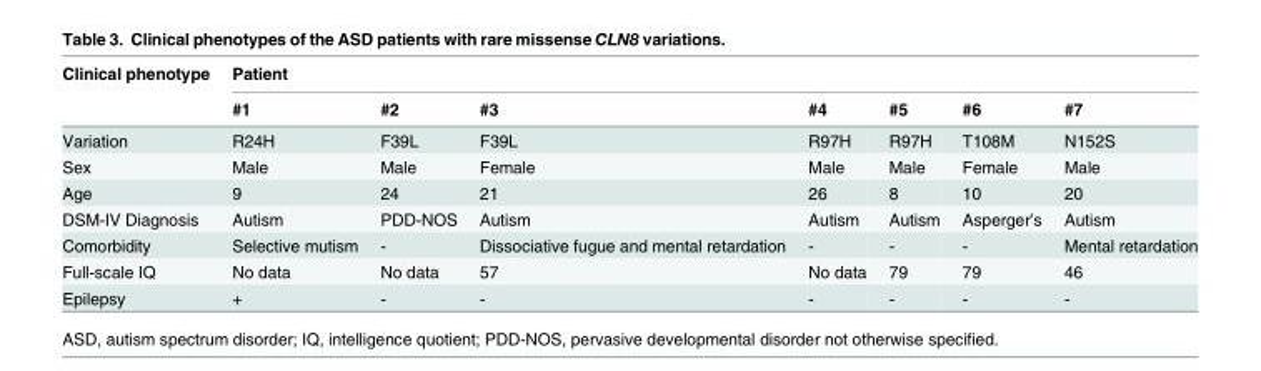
<table><thead><tr><td rowspan="2">Clinical phenotype</td><td colspan="7">Patient</td></tr><tr><td>#1</td><td>#2</td><td>#3</td><td>#4</td><td>#5</td><td>#6</td><td>#7</td></tr></thead><tbody><tr><td>Variation</td><td>R24H</td><td>F39L</td><td>F39L</td><td>R97H</td><td>R97H</td><td>T108M</td><td>N152S</td></tr><tr><td>Sex</td><td>Male</td><td>Male</td><td>Female</td><td>Male</td><td>Male</td><td>Female</td><td>Male</td></tr><tr><td>Age</td><td>9</td><td>24</td><td>21</td><td>26</td><td>8</td><td>10</td><td>20</td></tr><tr><td>DSM-IV Diagnosis</td><td>Autism</td><td>PDD-NOS</td><td>Autism</td><td>Autism</td><td>Autism</td><td>Asperger’s</td><td>Autism</td></tr><tr><td>Comorbidity</td><td>Selective mutism</td><td>-</td><td>Dissociative fugue and mental retardation</td><td>-</td><td>-</td><td>-</td><td>Mental retardation</td></tr><tr><td>Full-scale IQ</td><td>No data</td><td>No data</td><td>57</td><td>No data</td><td>79</td><td>79</td><td>46</td></tr><tr><td>Epilepsy</td><td>+</td><td>-</td><td>-</td><td>-</td><td>-</td><td>-</td><td>-</td></tr></tbody></table>